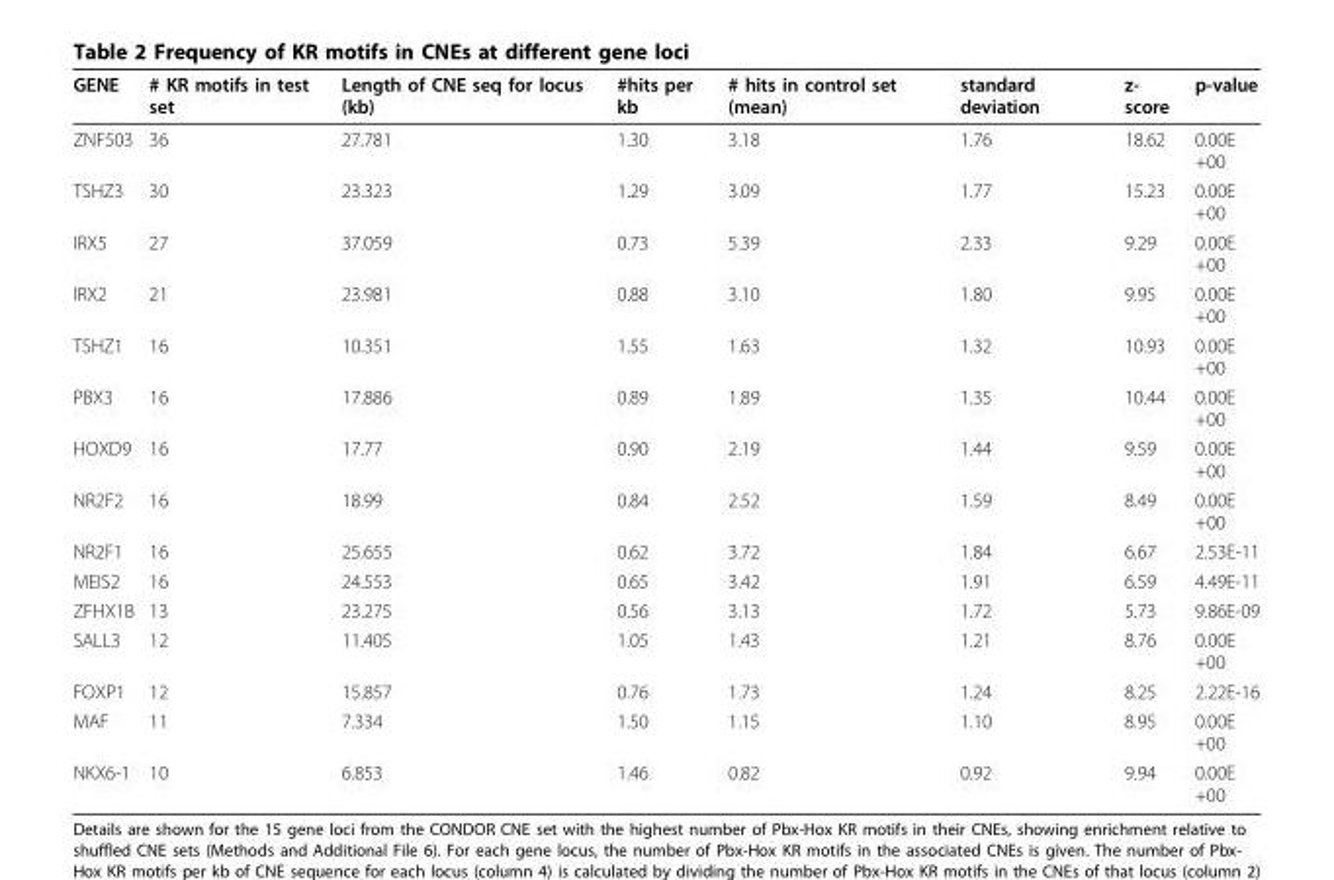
<table><thead><tr><td>GENE</td><td># KR motifs in test set</td><td>Length of CNE seq for locus (kb)</td><td>#hits per kb</td><td># hits in control set (mean)</td><td>standard deviation</td><td>z- score</td><td>p-value</td></tr></thead><tbody><tr><td>ZNF503</td><td>36</td><td>27.781</td><td>1.30</td><td>3.18</td><td>1.76</td><td>18.62</td><td>0.00E +00</td></tr><tr><td>TSHZ3</td><td>30</td><td>23.323</td><td>1.29</td><td>3.09</td><td>1.77</td><td>15.23</td><td>0.00E +00</td></tr><tr><td>IRX5</td><td>27</td><td>37.059</td><td>0.73</td><td>5.39</td><td>2.33</td><td>9.29</td><td>0.00E +00</td></tr><tr><td>IRX2</td><td>21</td><td>23.981</td><td>0.88</td><td>3.10</td><td>1.80</td><td>9.95</td><td>0.00E +00</td></tr><tr><td>TSHZ1</td><td>16</td><td>10.351</td><td>1.55</td><td>1.63</td><td>1.32</td><td>10.93</td><td>0.00E +00</td></tr><tr><td>PBX3</td><td>16</td><td>17.886</td><td>0.89</td><td>1.89</td><td>1.35</td><td>10.44</td><td>0.00E +00</td></tr><tr><td>HOXD9</td><td>16</td><td>17.77</td><td>0.90</td><td>2.19</td><td>1.44</td><td>9.59</td><td>0.00E +00</td></tr><tr><td>NR2F2</td><td>16</td><td>18.99</td><td>0.84</td><td>2.52</td><td>1.59</td><td>8.49</td><td>0.00E +00</td></tr><tr><td>NR2F1</td><td>16</td><td>25.655</td><td>0.62</td><td>3.72</td><td>1.84</td><td>6.67</td><td>2.53E-11</td></tr><tr><td>MEIS2</td><td>16</td><td>24.553</td><td>0.65</td><td>3.42</td><td>1.91</td><td>6.59</td><td>4.49E-11</td></tr><tr><td>ZFHX1B</td><td>13</td><td>23.275</td><td>0.56</td><td>3.13</td><td>1.72</td><td>5.73</td><td>9.86E-09</td></tr><tr><td>SALL3</td><td>12</td><td>11.405</td><td>1.05</td><td>1.43</td><td>1.21</td><td>8.76</td><td>0.00E +00</td></tr><tr><td>FOXP1</td><td>12</td><td>15.857</td><td>0.76</td><td>1.73</td><td>1.24</td><td>8.25</td><td>2.22E-16</td></tr><tr><td>MAF</td><td>11</td><td>7.334</td><td>1.50</td><td>1.15</td><td>1.10</td><td>8.95</td><td>0.00E +00</td></tr><tr><td>NKX6-1</td><td>10</td><td>6.853</td><td>1.46</td><td>0.82</td><td>0.92</td><td>9.94</td><td>0.00E +00</td></tr></tbody></table>